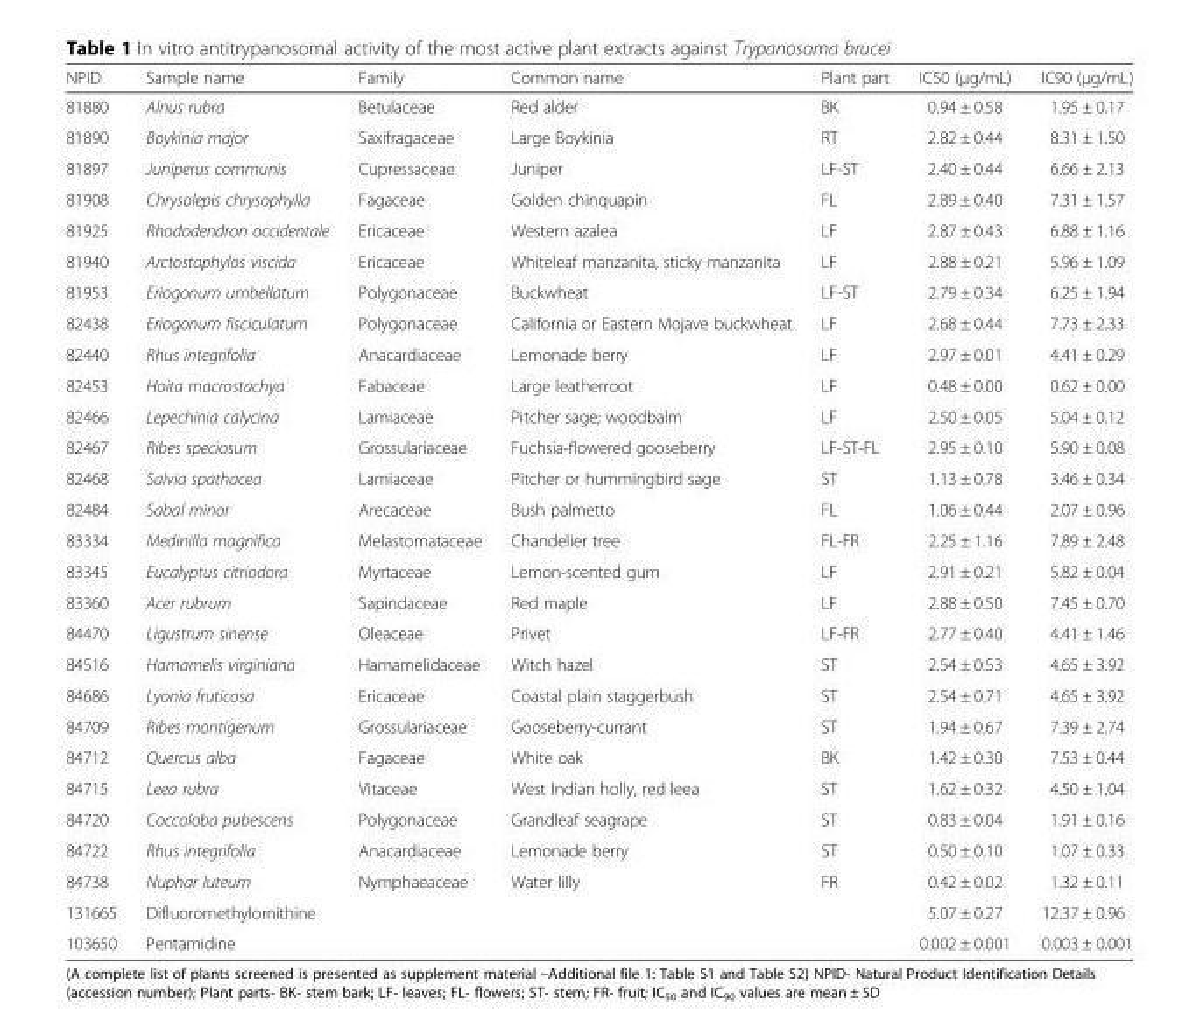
<table><thead><tr><td>NPID</td><td>Sample name</td><td>Family</td><td>Common name</td><td>Plant part</td><td>IC50 (μg/mL)</td><td>IC90 (μg/mL)</td></tr></thead><tbody><tr><td>81880</td><td>Alnus rubra</td><td>Betulaceae</td><td>Red alder</td><td>BK</td><td>0.94 ± 0.58</td><td>1.95 ± 0.17</td></tr><tr><td>81890</td><td>Boykinia major</td><td>Saxifragaceae</td><td>Large Boykinia</td><td>RT</td><td>2.82 ± 0.44</td><td>8.31 ± 1.50</td></tr><tr><td>81897</td><td>Juniperus communis</td><td>Cupressaceae</td><td>Juniper</td><td>LF-ST</td><td>2.40 ± 0.44</td><td>6.66 ± 2.13</td></tr><tr><td>81908</td><td>Chrysolepis chrysophylla</td><td>Fagaceae</td><td>Golden chinquapin</td><td>FL</td><td>2.89 ± 0.40</td><td>7.31 ± 1.57</td></tr><tr><td>81925</td><td>Rhododendron occidentale</td><td>Ericaceae</td><td>Western azalea</td><td>LF</td><td>2.87 ± 0.43</td><td>6.88 ± 1.16</td></tr><tr><td>81940</td><td>Arctostaphylos viscida</td><td>Ericaceae</td><td>Whiteleaf manzanita, sticky manzanita</td><td>LF</td><td>2.88 ± 0.21</td><td>5.96 ± 1.09</td></tr><tr><td>81953</td><td>Eriogonum umbellatum</td><td>Polygonaceae</td><td>Buckwheat</td><td>LF-ST</td><td>2.79 ± 0.34</td><td>6.25 ± 1.94</td></tr><tr><td>82438</td><td>Eriogonum fisciculatum</td><td>Polygonaceae</td><td>California or Eastern Mojave buckwheat</td><td>LF</td><td>2.68 ± 0.44</td><td>7.73 ± 2.33</td></tr><tr><td>82440</td><td>Rhus integrifolia</td><td>Anacardiaceae</td><td>Lemonade berry</td><td>LF</td><td>2.97 ± 0.01</td><td>4.41 ± 0.29</td></tr><tr><td>82453</td><td>Hoita macrostachya</td><td>Fabaceae</td><td>Large leatherroot</td><td>LF</td><td>0.48 ± 0.00</td><td>0.62 ± 0.00</td></tr><tr><td>82466</td><td>Lepechinia calycina</td><td>Lamiaceae</td><td>Pitcher sage; woodbalm</td><td>LF</td><td>2.50 ± 0.05</td><td>5.04 ± 0.12</td></tr><tr><td>82467</td><td>Ribes speciosum</td><td>Grossulariaceae</td><td>Fuchsia-flowered gooseberry</td><td>LF-ST-FL</td><td>2.95 ± 0.10</td><td>5.90 ± 0.08</td></tr><tr><td>82468</td><td>Salvia spathacea</td><td>Lamiaceae</td><td>Pitcher or hummingbird sage</td><td>ST</td><td>1.13 ± 0.78</td><td>3.46 ± 0.34</td></tr><tr><td>82484</td><td>Sabal minor</td><td>Arecaceae</td><td>Bush palmetto</td><td>FL</td><td>1.06 ± 0.44</td><td>2.07 ± 0.96</td></tr><tr><td>83334</td><td>Medinilla magnifica</td><td>Melastomataceae</td><td>Chandelier tree</td><td>FL-FR</td><td>2.25 ± 1.16</td><td>7.89 ± 2.48</td></tr><tr><td>83345</td><td>Eucalyptus citriodora</td><td>Myrtaceae</td><td>Lemon-scented gum</td><td>LF</td><td>2.91 ± 0.21</td><td>5.82 ± 0.04</td></tr><tr><td>83360</td><td>Acer rubrum</td><td>Sapindaceae</td><td>Red maple</td><td>LF</td><td>2.88 ± 0.50</td><td>7.45 ± 0.70</td></tr><tr><td>84470</td><td>Ligustrum sinense</td><td>Oleaceae</td><td>Privet</td><td>LF-FR</td><td>2.77 ± 0.40</td><td>4.41 ± 1.46</td></tr><tr><td>84516</td><td>Hamamelis virginiana</td><td>Hamamelidaceae</td><td>Witch hazel</td><td>ST</td><td>2.54 ± 0.53</td><td>4.65 ± 3.92</td></tr><tr><td>84686</td><td>Lyonia fruticosa</td><td>Ericaceae</td><td>Coastal plain staggerbush</td><td>ST</td><td>2.54 ± 0.71</td><td>4.65 ± 3.92</td></tr><tr><td>84709</td><td>Ribes montigenum</td><td>Grossulariaceae</td><td>Gooseberry-currant</td><td>ST</td><td>1.94 ± 0.67</td><td>7.39 ± 2.74</td></tr><tr><td>84712</td><td>Quercus alba</td><td>Fagaceae</td><td>White oak</td><td>BK</td><td>1.42 ± 0.30</td><td>7.53 ± 0.44</td></tr><tr><td>84715</td><td>Leea rubra</td><td>Vitaceae</td><td>West Indian holly, red leea</td><td>ST</td><td>1.62 ± 0.32</td><td>4.50 ± 1.04</td></tr><tr><td>84720</td><td>Coccoloba pubescens</td><td>Polygonaceae</td><td>Grandleaf seagrape</td><td>ST</td><td>0.83 ± 0.04</td><td>1.91 ± 0.16</td></tr><tr><td>84722</td><td>Rhus integrifolia</td><td>Anacardiaceae</td><td>Lemonade berry</td><td>ST</td><td>0.50 ± 0.10</td><td>1.07 ± 0.33</td></tr><tr><td>84738</td><td>Nuphar luteum</td><td>Nymphaeaceae</td><td>Water lilly</td><td>FR</td><td>0.42 ± 0.02</td><td>1.32 ± 0.11</td></tr><tr><td>131665</td><td>Difluoromethylornithine</td><td></td><td></td><td></td><td>5.07 ± 0.27</td><td>12.37 ± 0.96</td></tr><tr><td>103650</td><td>Pentamidine</td><td></td><td></td><td></td><td>0.002 ± 0.001</td><td>0.003 ± 0.001</td></tr></tbody></table>